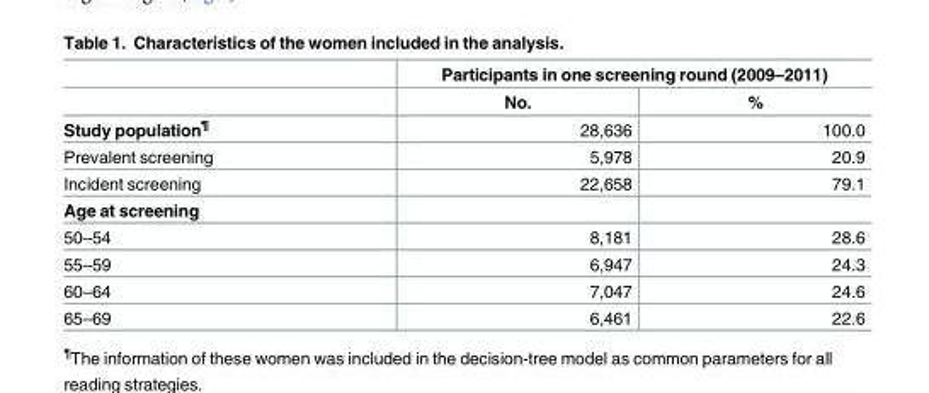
<table><thead><tr><td rowspan="2"></td><td colspan="2">Participants in one screening round (2009–2011)</td></tr><tr><td>No.</td><td>%</td></tr></thead><tbody><tr><td>Study population<sup>¶</sup></td><td>28,636</td><td>100.0</td></tr><tr><td>Prevalent screening</td><td>5,978</td><td>20.9</td></tr><tr><td>Incident screening</td><td>22,658</td><td>79.1</td></tr><tr><td colspan="3">Age at screening</td></tr><tr><td>50–54</td><td>8,181</td><td>28.6</td></tr><tr><td>55–59</td><td>6,947</td><td>24.3</td></tr><tr><td>60–64</td><td>7,047</td><td>24.6</td></tr><tr><td>65–69</td><td>6,461</td><td>22.6</td></tr></tbody></table>